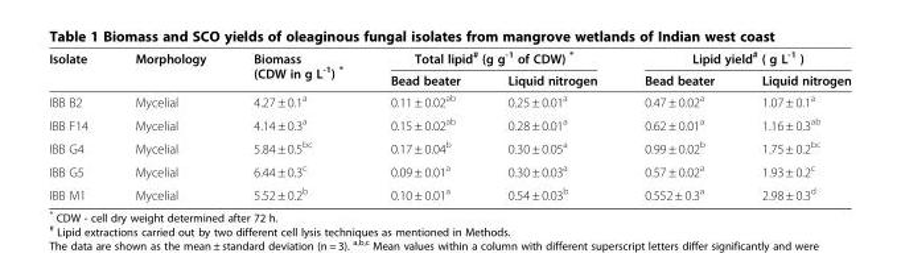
<table><thead><tr><td rowspan="2">Isolate</td><td rowspan="2">Morphology</td><td rowspan="2">Biomass (CDW in g L<sup>-1</sup>) *</td><td colspan="2">Total lipid<sup>#</sup> (g g<sup>-1</sup> of CDW) *</td><td colspan="2">Lipid yield<sup>#</sup> ( g L<sup>-1</sup> )</td></tr><tr><td>Bead beater</td><td>Liquid nitrogen</td><td>Bead beater</td><td>Liquid nitrogen</td></tr></thead><tbody><tr><td>IBB B2</td><td>Mycelial</td><td>4.27 ± 0.1<sup>a</sup></td><td>0.11 ± 0.02<sup>ab</sup></td><td>0.25 ± 0.01<sup>a</sup></td><td>0.47 ± 0.02<sup>a</sup></td><td>1.07 ± 0.1<sup>a</sup></td></tr><tr><td>IBB F14</td><td>Mycelial</td><td>4.14 ± 0.3<sup>a</sup></td><td>0.15 ± 0.02<sup>ab</sup></td><td>0.28 ± 0.01<sup>a</sup></td><td>0.62 ± 0.01<sup>a</sup></td><td>1.16 ± 0.3<sup>ab</sup></td></tr><tr><td>IBB G4</td><td>Mycelial</td><td>5.84 ± 0.5<sup>bc</sup></td><td>0.17 ± 0.04<sup>b</sup></td><td>0.30 ± 0.05<sup>a</sup></td><td>0.99 ± 0.02<sup>b</sup></td><td>1.75 ± 0.2<sup>bc</sup></td></tr><tr><td>IBB G5</td><td>Mycelial</td><td>6.44 ± 0.3<sup>c</sup></td><td>0.09 ± 0.01<sup>a</sup></td><td>0.30 ± 0.03<sup>a</sup></td><td>0.57 ± 0.02<sup>a</sup></td><td>1.93 ± 0.2<sup>c</sup></td></tr><tr><td>IBB M1</td><td>Mycelial</td><td>5.52 ± 0.2<sup>b</sup></td><td>0.10 ± 0.01<sup>a</sup></td><td>0.54 ± 0.03<sup>b</sup></td><td>0.552 ± 0.3<sup>a</sup></td><td>2.98 ± 0.3<sup>d</sup></td></tr></tbody></table>